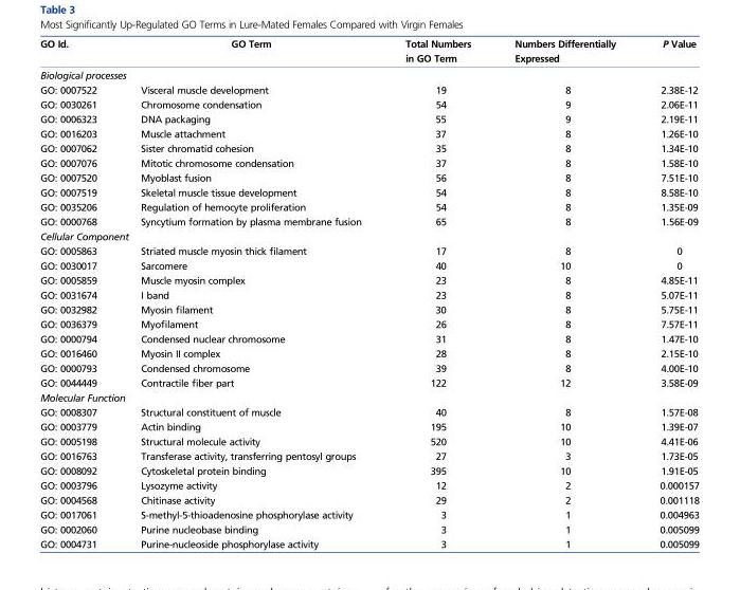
<table><thead><tr><td>GO Id.</td><td>GO Term</td><td>Total Numbers in GO Term</td><td>Numbers Differentially Expressed</td><td>P Value</td></tr></thead><tbody><tr><td colspan="5">Biological processes</td></tr><tr><td>GO: 0007522</td><td>Visceral muscle development</td><td>19</td><td>8</td><td>2.38E-12</td></tr><tr><td>GO: 0030261</td><td>Chromosome condensation</td><td>54</td><td>9</td><td>2.06E-11</td></tr><tr><td>GO: 0006323</td><td>DNA packaging</td><td>55</td><td>9</td><td>2.19E-11</td></tr><tr><td>GO: 0016203</td><td>Muscle attachment</td><td>37</td><td>8</td><td>1.26E-10</td></tr><tr><td>GO: 0007062</td><td>Sister chromatid cohesion</td><td>35</td><td>8</td><td>1.34E-10</td></tr><tr><td>GO: 0007076</td><td>Mitotic chromosome condensation</td><td>37</td><td>8</td><td>1.58E-10</td></tr><tr><td>GO: 0007520</td><td>Myoblast fusion</td><td>56</td><td>8</td><td>7.51E-10</td></tr><tr><td>GO: 0007519</td><td>Skeletal muscle tissue development</td><td>54</td><td>8</td><td>8.58E-10</td></tr><tr><td>GO: 0035206</td><td>Regulation of hemocyte proliferation</td><td>54</td><td>8</td><td>1.35E-09</td></tr><tr><td>GO: 0000768</td><td>Syncytium formation by plasma membrane fusion</td><td>65</td><td>8</td><td>1.56E-09</td></tr><tr><td colspan="5">Cellular Component</td></tr><tr><td>GO: 0005863</td><td>Striated muscle myosin thick filament</td><td>17</td><td>8</td><td>0</td></tr><tr><td>GO: 0030017</td><td>Sarcomere</td><td>40</td><td>10</td><td>0</td></tr><tr><td>GO: 0005859</td><td>Muscle myosin complex</td><td>23</td><td>8</td><td>4.85E-11</td></tr><tr><td>GO: 0031674</td><td>I band</td><td>23</td><td>8</td><td>5.07E-11</td></tr><tr><td>GO: 0032982</td><td>Myosin filament</td><td>30</td><td>8</td><td>5.75E-11</td></tr><tr><td>GO: 0036379</td><td>Myofilament</td><td>26</td><td>8</td><td>7.57E-11</td></tr><tr><td>GO: 0000794</td><td>Condensed nuclear chromosome</td><td>31</td><td>8</td><td>1.47E-10</td></tr><tr><td>GO: 0016460</td><td>Myosin II complex</td><td>28</td><td>8</td><td>2.15E-10</td></tr><tr><td>GO: 0000793</td><td>Condensed chromosome</td><td>39</td><td>8</td><td>4.00E-10</td></tr><tr><td>GO: 0044449</td><td>Contractile fiber part</td><td>122</td><td>12</td><td>3.58E-09</td></tr><tr><td colspan="5">Molecular Function</td></tr><tr><td>GO: 0008307</td><td>Structural constituent of muscle</td><td>40</td><td>8</td><td>1.57E-08</td></tr><tr><td>GO: 0003779</td><td>Actin binding</td><td>195</td><td>10</td><td>1.39E-07</td></tr><tr><td>GO: 0005198</td><td>Structural molecule activity</td><td>520</td><td>10</td><td>4.41E-06</td></tr><tr><td>GO: 0016763</td><td>Transferase activity, transferring pentosyl groups</td><td>27</td><td>3</td><td>1.73E-05</td></tr><tr><td>GO: 0008092</td><td>Cytoskeletal protein binding</td><td>395</td><td>10</td><td>1.91E-05</td></tr><tr><td>GO: 0003796</td><td>Lysozyme activity</td><td>12</td><td>2</td><td>0.000157</td></tr><tr><td>GO: 0004568</td><td>Chitinase activity</td><td>29</td><td>2</td><td>0.001118</td></tr><tr><td>GO: 0017061</td><td>S-methyl-5-thioadenosine phosphorylase activity</td><td>3</td><td>1</td><td>0.004963</td></tr><tr><td>GO: 0002060</td><td>Purine nucleobase binding</td><td>3</td><td>1</td><td>0.005099</td></tr><tr><td>GO: 0004731</td><td>Purine-nucleoside phosphorylase activity</td><td>3</td><td>1</td><td>0.005099</td></tr></tbody></table>